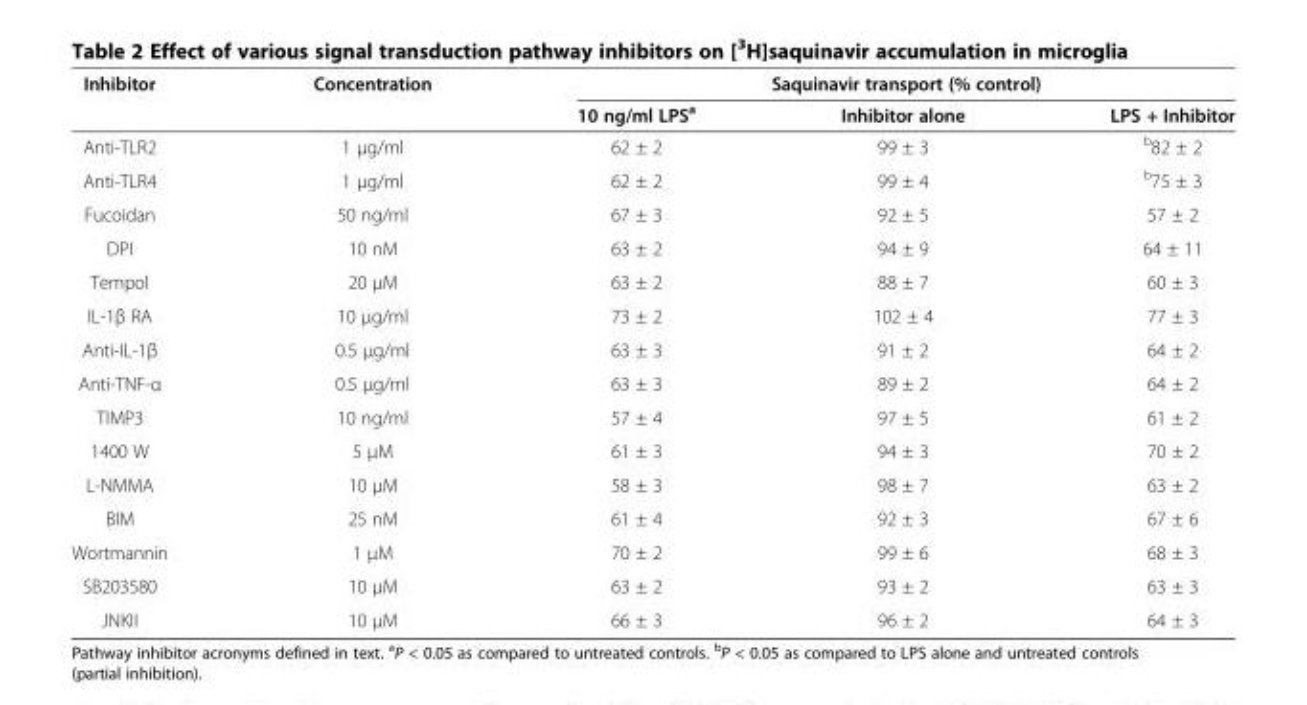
<table><thead><tr><td rowspan="2">Inhibitor</td><td rowspan="2">Concentration</td><td colspan="3">Saquinavir transport (% control)</td></tr><tr><td>10 ng/ml LPS<sup>a</sup></td><td>Inhibitor alone</td><td>LPS + Inhibitor</td></tr></thead><tbody><tr><td>Anti-TLR2</td><td>1 μg/ml</td><td>62 ± 2</td><td>99 ± 3</td><td><sup>b</sup>82 ± 2</td></tr><tr><td>Anti-TLR4</td><td>1 μg/ml</td><td>62 ± 2</td><td>99 ± 4</td><td><sup>b</sup>75 ± 3</td></tr><tr><td>Fucoidan</td><td>50 ng/ml</td><td>67 ± 3</td><td>92 ± 5</td><td>57 ± 2</td></tr><tr><td>DPI</td><td>10 nM</td><td>63 ± 2</td><td>94 ± 9</td><td>64 ± 11</td></tr><tr><td>Tempol</td><td>20 μM</td><td>63 ± 2</td><td>88 ± 7</td><td>60 ± 3</td></tr><tr><td>IL-1β RA</td><td>10 μg/ml</td><td>73 ± 2</td><td>102 ± 4</td><td>77 ± 3</td></tr><tr><td>Anti-IL-1β</td><td>0.5 μg/ml</td><td>63 ± 3</td><td>91 ± 2</td><td>64 ± 2</td></tr><tr><td>Anti-TNF-α</td><td>0.5 μg/ml</td><td>63 ± 3</td><td>89 ± 2</td><td>64 ± 2</td></tr><tr><td>TIMP3</td><td>10 ng/ml</td><td>57 ± 4</td><td>97 ± 5</td><td>61 ± 2</td></tr><tr><td>1400 W</td><td>5 μM</td><td>61 ± 3</td><td>94 ± 3</td><td>70 ± 2</td></tr><tr><td>L-NMMA</td><td>10 μM</td><td>58 ± 3</td><td>98 ± 7</td><td>63 ± 2</td></tr><tr><td>BIM</td><td>25 nM</td><td>61 ± 4</td><td>92 ± 3</td><td>67 ± 6</td></tr><tr><td>Wortmannin</td><td>1 μM</td><td>70 ± 2</td><td>99 ± 6</td><td>68 ± 3</td></tr><tr><td>SB203580</td><td>10 μM</td><td>63 ± 2</td><td>93 ± 2</td><td>63 ± 3</td></tr><tr><td>JNKII</td><td>10 μM</td><td>66 ± 3</td><td>96 ± 2</td><td>64 ± 3</td></tr></tbody></table>